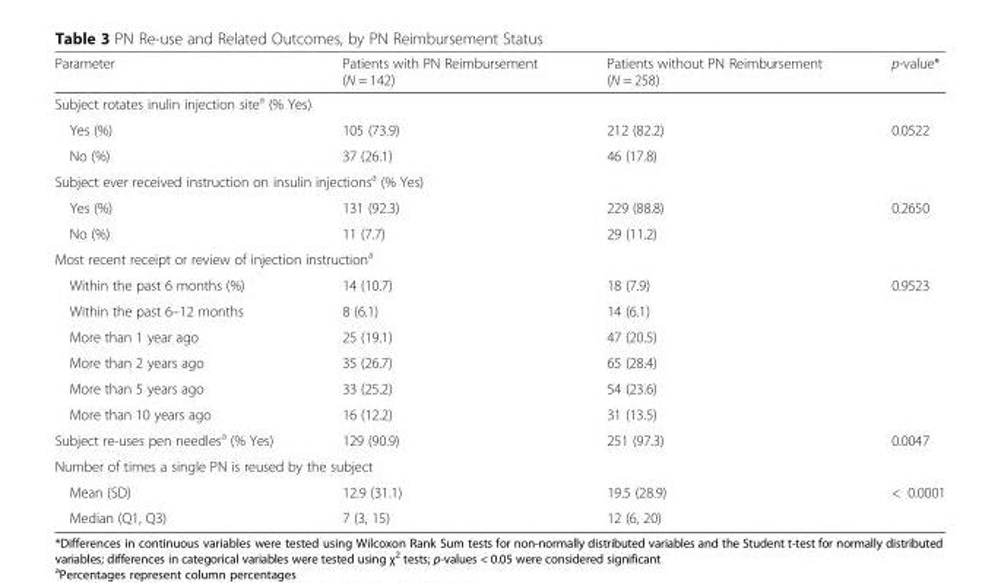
<table><thead><tr><td>Parameter</td><td>Patients with PN Reimbursement (N = 142)</td><td>Patients without PN Reimbursement (N = 258)</td><td>p-value*</td></tr></thead><tbody><tr><td colspan="4">Subject rotates inulin injection site<sup>a</sup> (% Yes)</td></tr><tr><td>Yes (%)</td><td>105 (73.9)</td><td>212 (82.2)</td><td rowspan="2">0.0522</td></tr><tr><td>No (%)</td><td>37 (26.1)</td><td>46 (17.8)</td></tr><tr><td colspan="4">Subject ever received instruction on insulin injections<sup>a</sup> (% Yes)</td></tr><tr><td>Yes (%)</td><td>131 (92.3)</td><td>229 (88.8)</td><td rowspan="2">0.2650</td></tr><tr><td>No (%)</td><td>11 (7.7)</td><td>29 (11.2)</td></tr><tr><td colspan="4">Most recent receipt or review of injection instruction<sup>a</sup></td></tr><tr><td>Within the past 6 months (%)</td><td>14 (10.7)</td><td>18 (7.9)</td><td rowspan="6">0.9523</td></tr><tr><td>Within the past 6–12 months</td><td>8 (6.1)</td><td>14 (6.1)</td></tr><tr><td>More than 1 year ago</td><td>25 (19.1)</td><td>47 (20.5)</td></tr><tr><td>More than 2 years ago</td><td>35 (26.7)</td><td>65 (28.4)</td></tr><tr><td>More than 5 years ago</td><td>33 (25.2)</td><td>54 (23.6)</td></tr><tr><td>More than 10 years ago</td><td>16 (12.2)</td><td>31 (13.5)</td></tr><tr><td>Subject re-uses pen needles<sup>a</sup> (% Yes)</td><td>129 (90.9)</td><td>251 (97.3)</td><td>0.0047</td></tr><tr><td colspan="4">Number of times a single PN is reused by the subject</td></tr><tr><td>Mean (SD)</td><td>12.9 (31.1)</td><td>19.5 (28.9)</td><td rowspan="2">&lt; 0.0001</td></tr><tr><td>Median (Q1, Q3)</td><td>7 (3, 15)</td><td>12 (6, 20)</td></tr></tbody></table>